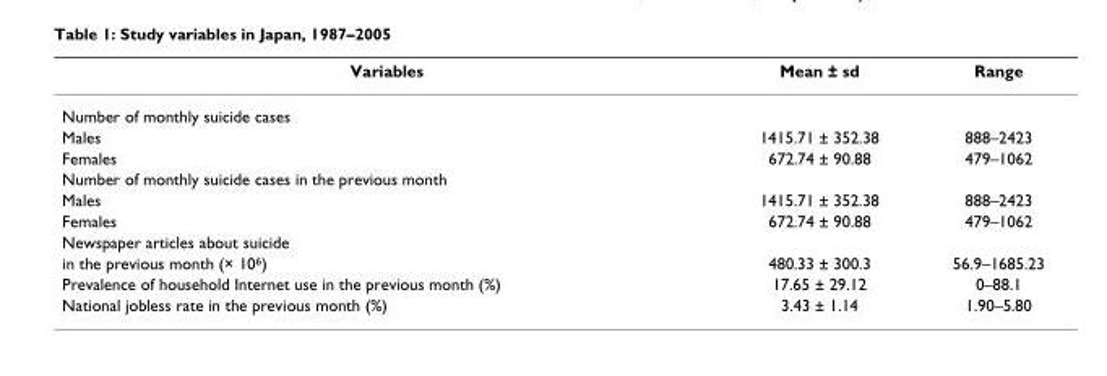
<table><thead><tr><td>Variables</td><td>Mean ± sd</td><td>Range</td></tr></thead><tbody><tr><td colspan="3">Number of monthly suicide cases</td></tr><tr><td>Males</td><td>1415.71 ± 352.38</td><td>888–2423</td></tr><tr><td>Females</td><td>672.74 ± 90.88</td><td>479–1062</td></tr><tr><td colspan="3">Number of monthly suicide cases in the previous month</td></tr><tr><td>Males</td><td>1415.71 ± 352.38</td><td>888–2423</td></tr><tr><td>Females</td><td>672.74 ± 90.88</td><td>479–1062</td></tr><tr><td colspan="3">Newspaper articles about suicide</td></tr><tr><td>in the previous month (× 10<sup>6</sup>)</td><td>480.33 ± 300.3</td><td>56.9–1685.23</td></tr><tr><td>Prevalence of household Internet use in the previous month (%)</td><td>17.65 ± 29.12</td><td>0–88.1</td></tr><tr><td>National jobless rate in the previous month (%)</td><td>3.43 ± 1.14</td><td>1.90–5.80</td></tr></tbody></table>